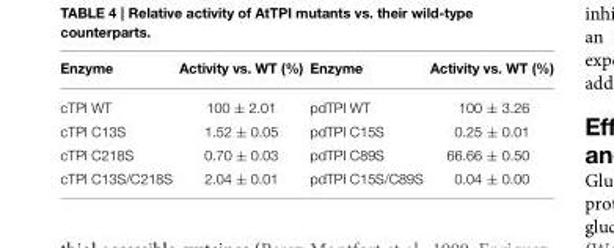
<table><thead><tr><td>Enzyme</td><td>Activity vs. WT (%)</td><td>Enzyme</td><td>Activity vs. WT (%)</td></tr></thead><tbody><tr><td>cTPI WT</td><td>100 ± 2.01</td><td>pdTPI WT</td><td>100 ± 3.26</td></tr><tr><td>cTPI C13S</td><td>1.52 ± 0.05</td><td>pdTPI C15S</td><td>0.25 ± 0.01</td></tr><tr><td>cTPI C218S</td><td>0.70 ± 0.03</td><td>pdTPI C89S</td><td>66.66 ± 0.50</td></tr><tr><td>cTPI C13S/C218S</td><td>2.04 ± 0.01</td><td>pdTPI C15S/C89S</td><td>0.04 ± 0.00</td></tr></tbody></table>